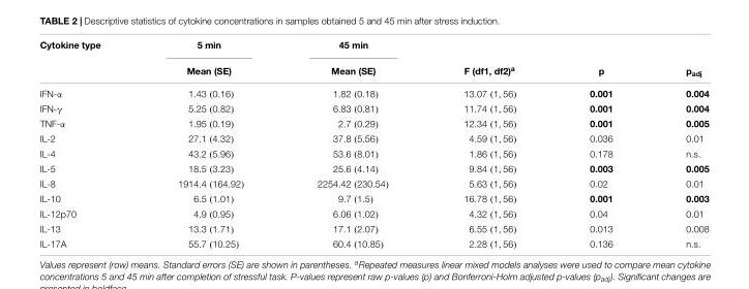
<table><thead><tr><td rowspan="2">Cytokine type</td><td rowspan="2">5 min Mean (SE)</td><td rowspan="2">45 min Mean (SE)</td><td rowspan="2">F (df1, df2)<sup>a</sup></td><td rowspan="2">p</td><td rowspan="2">p<sub>adj</sub></td></tr><tr></tr></thead><tbody><tr><td>IFN-α</td><td>1.43 (0.16)</td><td>1.82 (0.18)</td><td>13.07 (1, 56)</td><td>0.001</td><td>0.004</td></tr><tr><td>IFN-γ</td><td>5.25 (0.82)</td><td>6.83 (0.81)</td><td>11.74 (1, 56)</td><td>0.001</td><td>0.004</td></tr><tr><td>TNF-α</td><td>1.95 (0.19)</td><td>2.7 (0.29)</td><td>12.34 (1, 56)</td><td>0.001</td><td>0.005</td></tr><tr><td>IL-2</td><td>27.1 (4.32)</td><td>37.8 (5.56)</td><td>4.59 (1, 56)</td><td>0.036</td><td>0.01</td></tr><tr><td>IL-4</td><td>43.2 (5.96)</td><td>53.6 (8.01)</td><td>1.86 (1, 56)</td><td>0.178</td><td>n.s.</td></tr><tr><td>IL-5</td><td>18.5 (3.23)</td><td>25.6 (4.14)</td><td>9.84 (1, 56)</td><td>0.003</td><td>0.005</td></tr><tr><td>IL-8</td><td>1914.4 (164.92)</td><td>2254.42 (230.54)</td><td>5.63 (1, 56)</td><td>0.02</td><td>0.01</td></tr><tr><td>IL-10</td><td>6.5 (1.01)</td><td>9.7 (1.5)</td><td>16.78 (1, 56)</td><td>0.001</td><td>0.003</td></tr><tr><td>IL-12p70</td><td>4.9 (0.95)</td><td>6.06 (1.02)</td><td>4.32 (1, 56)</td><td>0.04</td><td>0.01</td></tr><tr><td>IL-13</td><td>13.3 (1.71)</td><td>17.1 (2.07)</td><td>6.55 (1, 56)</td><td>0.013</td><td>0.008</td></tr><tr><td>IL-17A</td><td>55.7 (10.25)</td><td>60.4 (10.85)</td><td>2.28 (1, 56)</td><td>0.136</td><td>n.s.</td></tr></tbody></table>